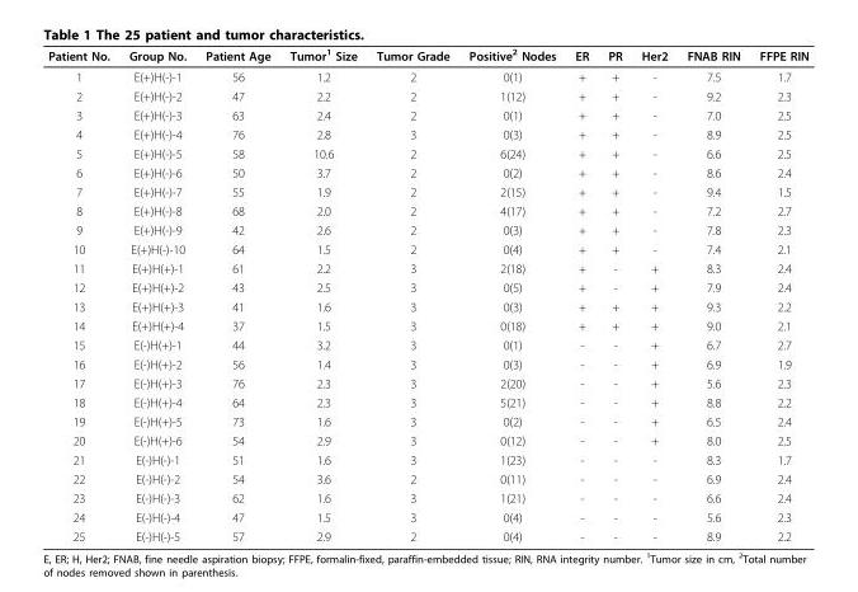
<table><thead><tr><td>Patient No.</td><td>Group No.</td><td>Patient Age</td><td>Tumor<sup>1</sup> Size</td><td>Tumor Grade</td><td>Positive<sup>2</sup> Nodes</td><td>ER</td><td>PR</td><td>Her2</td><td>FNAB RIN</td><td>FFPE RIN</td></tr></thead><tbody><tr><td>1</td><td>E(+)H(-)-1</td><td>56</td><td>1.2</td><td>2</td><td>0(1)</td><td>+</td><td>+</td><td>-</td><td>7.5</td><td>1.7</td></tr><tr><td>2</td><td>E(+)H(-)-2</td><td>47</td><td>2.2</td><td>2</td><td>1(12)</td><td>+</td><td>+</td><td>-</td><td>9.2</td><td>2.3</td></tr><tr><td>3</td><td>E(+)H(-)-3</td><td>63</td><td>2.4</td><td>2</td><td>0(1)</td><td>+</td><td>+</td><td>-</td><td>7.0</td><td>2.5</td></tr><tr><td>4</td><td>E(+)H(-)-4</td><td>76</td><td>2.8</td><td>3</td><td>0(3)</td><td>+</td><td>+</td><td>-</td><td>8.9</td><td>2.5</td></tr><tr><td>5</td><td>E(+)H(-)-5</td><td>58</td><td>10.6</td><td>2</td><td>6(24)</td><td>+</td><td>+</td><td>-</td><td>6.6</td><td>2.5</td></tr><tr><td>6</td><td>E(+)H(-)-6</td><td>50</td><td>3.7</td><td>2</td><td>0(2)</td><td>+</td><td>+</td><td>-</td><td>8.6</td><td>2.4</td></tr><tr><td>7</td><td>E(+)H(-)-7</td><td>55</td><td>1.9</td><td>2</td><td>2(15)</td><td>+</td><td>+</td><td>-</td><td>9.4</td><td>1.5</td></tr><tr><td>8</td><td>E(+)H(-)-8</td><td>68</td><td>2.0</td><td>2</td><td>4(17)</td><td>+</td><td>+</td><td>-</td><td>7.2</td><td>2.7</td></tr><tr><td>9</td><td>E(+)H(-)-9</td><td>42</td><td>2.6</td><td>2</td><td>0(3)</td><td>+</td><td>+</td><td>-</td><td>7.8</td><td>2.3</td></tr><tr><td>10</td><td>E(+)H(-)-10</td><td>64</td><td>1.5</td><td>2</td><td>0(4)</td><td>+</td><td>+</td><td>-</td><td>7.4</td><td>2.1</td></tr><tr><td>11</td><td>E(+)H(+)-1</td><td>61</td><td>2.2</td><td>3</td><td>2(18)</td><td>+</td><td>-</td><td>+</td><td>8.3</td><td>2.4</td></tr><tr><td>12</td><td>E(+)H(+)-2</td><td>43</td><td>2.5</td><td>3</td><td>0(5)</td><td>+</td><td>-</td><td>+</td><td>7.9</td><td>2.4</td></tr><tr><td>13</td><td>E(+)H(+)-3</td><td>41</td><td>1.6</td><td>3</td><td>0(3)</td><td>+</td><td>+</td><td>+</td><td>9.3</td><td>2.2</td></tr><tr><td>14</td><td>E(+)H(+)-4</td><td>37</td><td>1.5</td><td>3</td><td>0(18)</td><td>+</td><td>+</td><td>+</td><td>9.0</td><td>2.1</td></tr><tr><td>15</td><td>E(-)H(+)-1</td><td>44</td><td>3.2</td><td>3</td><td>0(1)</td><td>-</td><td>-</td><td>+</td><td>6.7</td><td>2.7</td></tr><tr><td>16</td><td>E(-)H(+)-2</td><td>56</td><td>1.4</td><td>3</td><td>0(3)</td><td>-</td><td>-</td><td>+</td><td>6.9</td><td>1.9</td></tr><tr><td>17</td><td>E(-)H(+)-3</td><td>76</td><td>2.3</td><td>3</td><td>2(20)</td><td>-</td><td>-</td><td>+</td><td>5.6</td><td>2.3</td></tr><tr><td>18</td><td>E(-)H(+)-4</td><td>64</td><td>2.3</td><td>3</td><td>5(21)</td><td>-</td><td>-</td><td>+</td><td>8.8</td><td>2.2</td></tr><tr><td>19</td><td>E(-)H(+)-5</td><td>73</td><td>1.6</td><td>3</td><td>0(2)</td><td>-</td><td>-</td><td>+</td><td>6.5</td><td>2.4</td></tr><tr><td>20</td><td>E(-)H(+)-6</td><td>54</td><td>2.9</td><td>3</td><td>0(12)</td><td>-</td><td>-</td><td>+</td><td>8.0</td><td>2.5</td></tr><tr><td>21</td><td>E(-)H(-)-1</td><td>51</td><td>1.6</td><td>3</td><td>1(23)</td><td>-</td><td>-</td><td>-</td><td>8.3</td><td>1.7</td></tr><tr><td>22</td><td>E(-)H(-)-2</td><td>54</td><td>3.6</td><td>2</td><td>0(11)</td><td>-</td><td>-</td><td>-</td><td>6.9</td><td>2.4</td></tr><tr><td>23</td><td>E(-)H(-)-3</td><td>62</td><td>1.6</td><td>3</td><td>1(21)</td><td>-</td><td>-</td><td>-</td><td>6.6</td><td>2.4</td></tr><tr><td>24</td><td>E(-)H(-)-4</td><td>47</td><td>1.5</td><td>3</td><td>0(4)</td><td>-</td><td>-</td><td>-</td><td>5.6</td><td>2.3</td></tr><tr><td>25</td><td>E(-)H(-)-5</td><td>57</td><td>2.9</td><td>2</td><td>0(4)</td><td>-</td><td>-</td><td>-</td><td>8.9</td><td>2.2</td></tr></tbody></table>